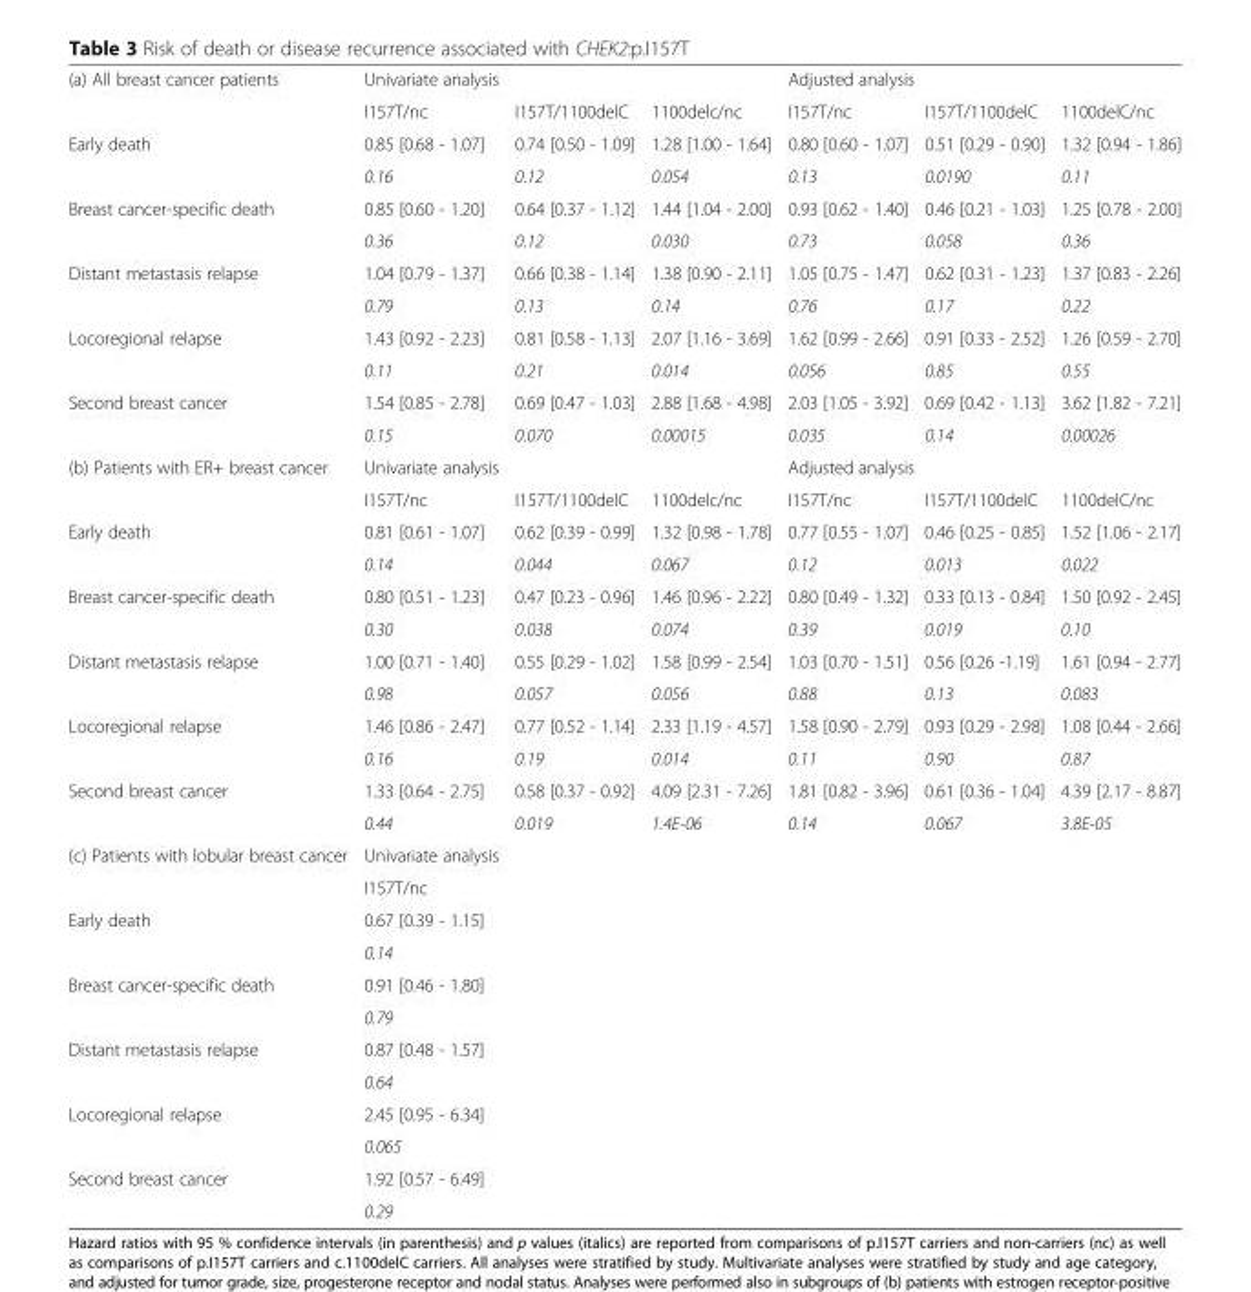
<table><tbody><tr><td rowspan="2">(a) All breast cancer patients</td><td colspan="3">Univariate analysis</td><td colspan="3">Adjusted analysis</td></tr><tr><td>I157T/nc</td><td>I157T/1100delC</td><td>1100delc/nc</td><td>I157T/nc</td><td>I157T/1100delC</td><td>1100delC/nc</td></tr><tr><td rowspan="2">Early death</td><td>0.85 [0.68 - 1.07]</td><td>0.74 [0.50 - 1.09]</td><td>1.28 [1.00 - 1.64]</td><td>0.80 [0.60 - 1.07]</td><td>0.51 [0.29 - 0.90]</td><td>1.32 [0.94 - 1.86]</td></tr><tr><td>0.16</td><td>0.12</td><td>0.054</td><td>0.13</td><td>0.0190</td><td>0.11</td></tr><tr><td rowspan="2">Breast cancer-specific death</td><td>0.85 [0.60 - 1.20]</td><td>0.64 [0.37 - 1.12]</td><td>1.44 [1.04 - 2.00]</td><td>0.93 [0.62 - 1.40]</td><td>0.46 [0.21 - 1.03]</td><td>1.25 [0.78 - 2.00]</td></tr><tr><td>0.36</td><td>0.12</td><td>0.030</td><td>0.73</td><td>0.058</td><td>0.36</td></tr><tr><td rowspan="2">Distant metastasis relapse</td><td>1.04 [0.79 - 1.37]</td><td>0.66 [0.38 - 1.14]</td><td>1.38 [0.90 - 2.11]</td><td>1.05 [0.75 - 1.47]</td><td>0.62 [0.31 - 1.23]</td><td>1.37 [0.83 - 2.26]</td></tr><tr><td>0.79</td><td>0.13</td><td>0.14</td><td>0.76</td><td>0.17</td><td>0.22</td></tr><tr><td rowspan="2">Locoregional relapse</td><td>1.43 [0.92 - 2.23]</td><td>0.81 [0.58 - 1.13]</td><td>2.07 [1.16 - 3.69]</td><td>1.62 [0.99 - 2.66]</td><td>0.91 [0.33 - 2.52]</td><td>1.26 [0.59 - 2.70]</td></tr><tr><td>0.11</td><td>0.21</td><td>0.014</td><td>0.056</td><td>0.85</td><td>0.55</td></tr><tr><td rowspan="2">Second breast cancer</td><td>1.54 [0.85 - 2.78]</td><td>0.69 [0.47 - 1.03]</td><td>2.88 [1.68 - 4.98]</td><td>2.03 [1.05 - 3.92]</td><td>0.69 [0.42 - 1.13]</td><td>3.62 [1.82 - 7.21]</td></tr><tr><td>0.15</td><td>0.070</td><td>0.00015</td><td>0.035</td><td>0.14</td><td>0.00026</td></tr><tr><td rowspan="2">(b) Patients with ER+ breast cancer</td><td colspan="3">Univariate analysis</td><td colspan="3">Adjusted analysis</td></tr><tr><td>I157T/nc</td><td>I157T/1100delC</td><td>1100delc/nc</td><td>I157T/nc</td><td>I157T/1100delC</td><td>1100delC/nc</td></tr><tr><td rowspan="2">Early death</td><td>0.81 [0.61 - 1.07]</td><td>0.62 [0.39 - 0.99]</td><td>1.32 [0.98 - 1.78]</td><td>0.77 [0.55 - 1.07]</td><td>0.46 [0.25 - 0.85]</td><td>1.52 [1.06 - 2.17]</td></tr><tr><td>0.14</td><td>0.044</td><td>0.067</td><td>0.12</td><td>0.013</td><td>0.022</td></tr><tr><td rowspan="2">Breast cancer-specific death</td><td>0.80 [0.51 - 1.23]</td><td>0.47 [0.23 - 0.96]</td><td>1.46 [0.96 - 2.22]</td><td>0.80 [0.49 - 1.32]</td><td>0.33 [0.13 - 0.84]</td><td>1.50 [0.92 - 2.45]</td></tr><tr><td>0.30</td><td>0.038</td><td>0.074</td><td>0.39</td><td>0.019</td><td>0.10</td></tr><tr><td rowspan="2">Distant metastasis relapse</td><td>1.00 [0.71 - 1.40]</td><td>0.55 [0.29 - 1.02]</td><td>1.58 [0.99 - 2.54]</td><td>1.03 [0.70 - 1.51]</td><td>0.56 [0.26 -1.19]</td><td>1.61 [0.94 - 2.77]</td></tr><tr><td>0.98</td><td>0.057</td><td>0.056</td><td>0.88</td><td>0.13</td><td>0.083</td></tr><tr><td rowspan="2">Locoregional relapse</td><td>1.46 [0.86 - 2.47]</td><td>0.77 [0.52 - 1.14]</td><td>2.33 [1.19 - 4.57]</td><td>1.58 [0.90 - 2.79]</td><td>0.93 [0.29 - 2.98]</td><td>1.08 [0.44 - 2.66]</td></tr><tr><td>0.16</td><td>0.19</td><td>0.014</td><td>0.11</td><td>0.90</td><td>0.87</td></tr><tr><td rowspan="2">Second breast cancer</td><td>1.33 [0.64 - 2.75]</td><td>0.58 [0.37 - 0.92]</td><td>4.09 [2.31 - 7.26]</td><td>1.81 [0.82 - 3.96]</td><td>0.61 [0.36 - 1.04]</td><td>4.39 [2.17 - 8.87]</td></tr><tr><td>0.44</td><td>0.019</td><td>1.4E-06</td><td>0.14</td><td>0.067</td><td>3.8E-05</td></tr><tr><td rowspan="2">(c) Patients with lobular breast cancer</td><td>Univariate analysis</td><td rowspan="12" colspan="5"></td></tr><tr><td>I157T/nc</td></tr><tr><td rowspan="2">Early death</td><td>0.67 [0.39 - 1.15]</td></tr><tr><td>0.14</td></tr><tr><td rowspan="2">Breast cancer-specific death</td><td>0.91 [0.46 - 1.80]</td></tr><tr><td>0.79</td></tr><tr><td rowspan="2">Distant metastasis relapse</td><td>0.87 [0.48 - 1.57]</td></tr><tr><td>0.64</td></tr><tr><td rowspan="2">Locoregional relapse</td><td>2.45 [0.95 - 6.34]</td></tr><tr><td>0.065</td></tr><tr><td rowspan="2">Second breast cancer</td><td>1.92 [0.57 - 6.49]</td></tr><tr><td>0.29</td></tr></tbody></table>